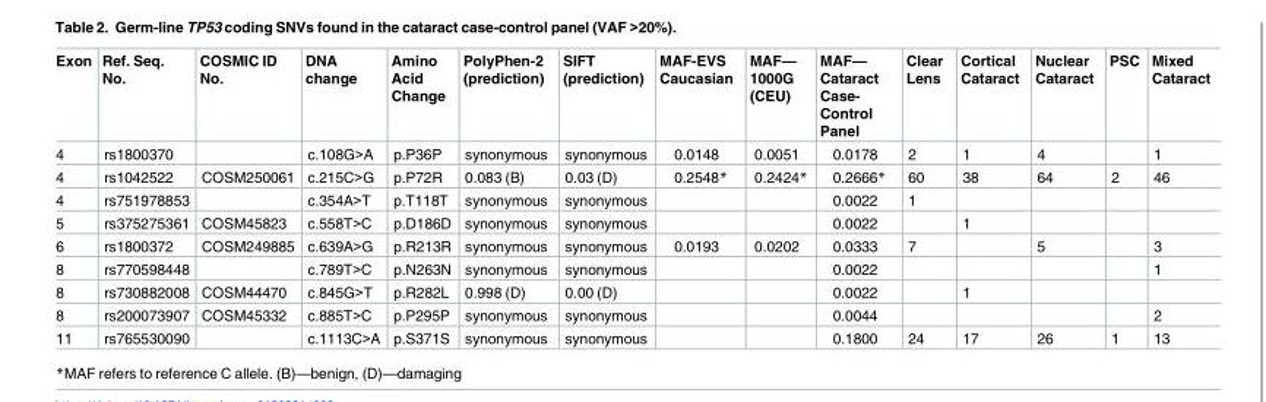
<table><thead><tr><td>Exon</td><td>Ref. Seq. No.</td><td>COSMIC ID No.</td><td>DNA change</td><td>Amino Acid Change</td><td>PolyPhen-2 (prediction)</td><td>SIFT (prediction)</td><td>MAF-EVS Caucasian</td><td>MAF— 1000G (CEU)</td><td>MAF— Cataract Case- Control Panel</td><td>Clear Lens</td><td>Cortical Cataract</td><td>Nuclear Cataract</td><td>PSC</td><td>Mixed Cataract</td></tr></thead><tbody><tr><td>4</td><td>rs1800370</td><td></td><td>c.108G&gt;A</td><td>p.P36P</td><td>synonymous</td><td>synonymous</td><td>0.0148</td><td>0.0051</td><td>0.0178</td><td>2</td><td>1</td><td>4</td><td></td><td>1</td></tr><tr><td>4</td><td>rs1042522</td><td>COSM250061</td><td>c.215C&gt;G</td><td>p.P72R</td><td>0.083 (B)</td><td>0.03 (D)</td><td>0.2548*</td><td>0.2424*</td><td>0.2666*</td><td>60</td><td>38</td><td>64</td><td>2</td><td>46</td></tr><tr><td>4</td><td>rs751978853</td><td></td><td>c.354A&gt;T</td><td>p.T118T</td><td>synonymous</td><td>synonymous</td><td></td><td></td><td>0.0022</td><td>1</td><td></td><td></td><td></td><td></td></tr><tr><td>5</td><td>rs375275361</td><td>COSM45823</td><td>c.558T&gt;C</td><td>p.D186D</td><td>synonymous</td><td>synonymous</td><td></td><td></td><td>0.0022</td><td></td><td>1</td><td></td><td></td><td></td></tr><tr><td>6</td><td>rs1800372</td><td>COSM249885</td><td>c.639A&gt;G</td><td>p.R213R</td><td>synonymous</td><td>synonymous</td><td>0.0193</td><td>0.0202</td><td>0.0333</td><td>7</td><td></td><td>5</td><td></td><td>3</td></tr><tr><td>8</td><td>rs770598448</td><td></td><td>c.789T&gt;C</td><td>p.N263N</td><td>synonymous</td><td>synonymous</td><td></td><td></td><td>0.0022</td><td></td><td></td><td></td><td></td><td>1</td></tr><tr><td>8</td><td>rs730882008</td><td>COSM44470</td><td>c.845G&gt;T</td><td>p.R282L</td><td>0.998 (D)</td><td>0.00 (D)</td><td></td><td></td><td>0.0022</td><td></td><td>1</td><td></td><td></td><td></td></tr><tr><td>8</td><td>rs200073907</td><td>COSM45332</td><td>c.885T&gt;C</td><td>p.P295P</td><td>synonymous</td><td>synonymous</td><td></td><td></td><td>0.0044</td><td></td><td></td><td></td><td></td><td>2</td></tr><tr><td>11</td><td>rs765530090</td><td></td><td>c.1113C&gt;A</td><td>p.S371S</td><td>synonymous</td><td>synonymous</td><td></td><td></td><td>0.1800</td><td>24</td><td>17</td><td>26</td><td>1</td><td>13</td></tr></tbody></table>